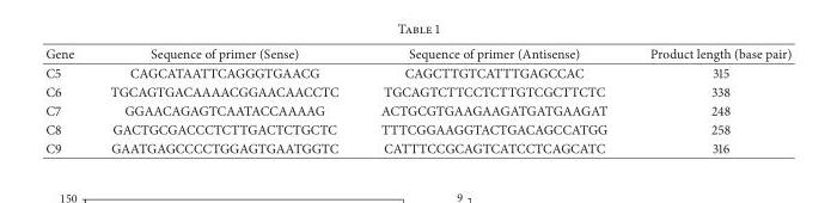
<table><thead><tr><td>Gene</td><td>Sequence of primer (Sense)</td><td>Sequence of primer (Antisense)</td><td>Product length (base pair)</td></tr></thead><tbody><tr><td>C5</td><td>CAGCATAATTCAGGGTGAACG</td><td>CAGCTTGTCATTTGAGCCAC</td><td>315</td></tr><tr><td>C6</td><td>TGCAGTGACAAAACGGAACAACCTC</td><td>TGCAGTCTTCCTCTTGTCGCTTCTC</td><td>338</td></tr><tr><td>C7</td><td>GGAACAGAGTCAATACCAAAAG</td><td>ACTGCGTGAAGAAGATGATGAAGAT</td><td>248</td></tr><tr><td>C8</td><td>GACTGCGACCCTCTTGACTCTGCTC</td><td>TTTCGGAAGGTACTGACAGCCATGG</td><td>258</td></tr><tr><td>C9</td><td>GAATGAGCCCCTGGAGTGAATGGTC</td><td>CATTTCCGCAGTCATCCTCAGCATC</td><td>316</td></tr></tbody></table>